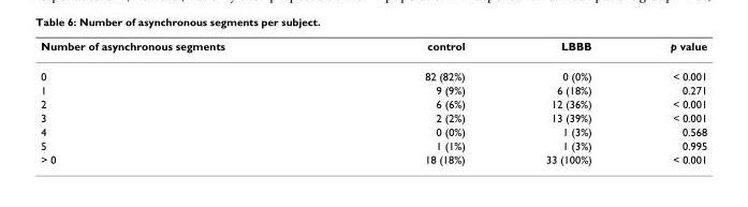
<table><thead><tr><td>Number of asynchronous segments</td><td>control</td><td>LBBB</td><td>p value</td></tr></thead><tbody><tr><td>0</td><td>82 (82%)</td><td>0 (0%)</td><td>&lt; 0.001</td></tr><tr><td>1</td><td>9 (9%)</td><td>6 (18%)</td><td>0.271</td></tr><tr><td>2</td><td>6 (6%)</td><td>12 (36%)</td><td>&lt; 0.001</td></tr><tr><td>3</td><td>2 (2%)</td><td>13 (39%)</td><td>&lt; 0.001</td></tr><tr><td>4</td><td>0 (0%)</td><td>1 (3%)</td><td>0.568</td></tr><tr><td>5</td><td>1 (1%)</td><td>1 (3%)</td><td>0.995</td></tr><tr><td>&gt; 0</td><td>18 (18%)</td><td>33 (100%)</td><td>&lt; 0.001</td></tr></tbody></table>